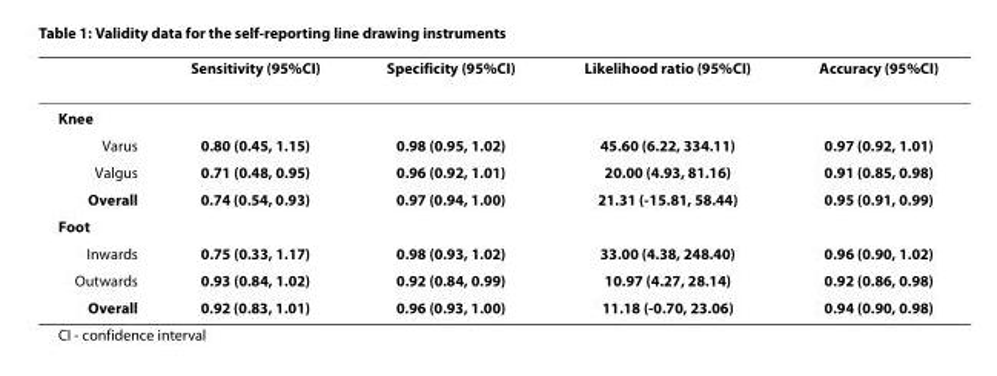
<table><thead><tr><td></td><td>Sensitivity (95%CI)</td><td>Specificity (95%CI)</td><td>Likelihood ratio (95%CI)</td><td>Accuracy (95%CI)</td></tr></thead><tbody><tr><td colspan="5">Knee</td></tr><tr><td>Varus</td><td>0.80 (0.45, 1.15)</td><td>0.98 (0.95, 1.02)</td><td>45.60 (6.22, 334.11)</td><td>0.97 (0.92, 1.01)</td></tr><tr><td>Valgus</td><td>0.71 (0.48, 0.95)</td><td>0.96 (0.92, 1.01)</td><td>20.00 (4.93, 81.16)</td><td>0.91 (0.85, 0.98)</td></tr><tr><td>Overall</td><td>0.74 (0.54, 0.93)</td><td>0.97 (0.94, 1.00)</td><td>21.31 (-15.81, 58.44)</td><td>0.95 (0.91, 0.99)</td></tr><tr><td colspan="5">Foot</td></tr><tr><td>Inwards</td><td>0.75 (0.33, 1.17)</td><td>0.98 (0.93, 1.02)</td><td>33.00 (4.38, 248.40)</td><td>0.96 (0.90, 1.02)</td></tr><tr><td>Outwards</td><td>0.93 (0.84, 1.02)</td><td>0.92 (0.84, 0.99)</td><td>10.97 (4.27, 28.14)</td><td>0.92 (0.86, 0.98)</td></tr><tr><td>Overall</td><td>0.92 (0.83, 1.01)</td><td>0.96 (0.93, 1.00)</td><td>11.18 (-0.70, 23.06)</td><td>0.94 (0.90, 0.98)</td></tr></tbody></table>